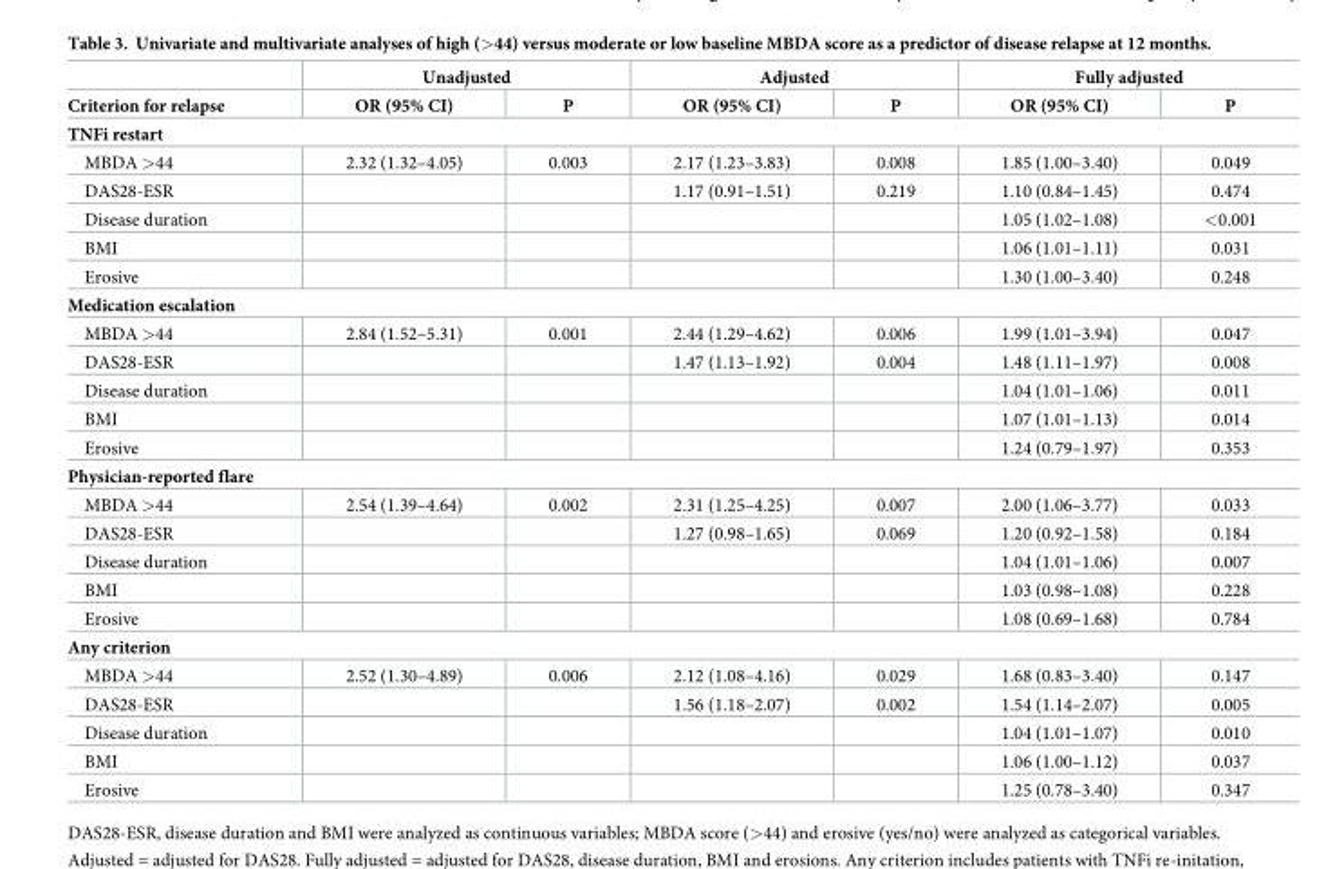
<table><thead><tr><td rowspan="2">Criterion for relapse</td><td colspan="2">Unadjusted</td><td colspan="2">Adjusted</td><td colspan="2">Fully adjusted</td></tr><tr><td>OR (95% CI)</td><td>P</td><td>OR (95% CI)</td><td>P</td><td>OR (95% CI)</td><td>P</td></tr></thead><tbody><tr><td colspan="7">TNFi restart</td></tr><tr><td>MBDA &gt;44</td><td>2.32 (1.32–4.05)</td><td>0.003</td><td>2.17 (1.23–3.83)</td><td>0.008</td><td>1.85 (1.00–3.40)</td><td>0.049</td></tr><tr><td>DAS28-ESR</td><td></td><td></td><td>1.17 (0.91–1.51)</td><td>0.219</td><td>1.10 (0.84–1.45)</td><td>0.474</td></tr><tr><td>Disease duration</td><td></td><td></td><td></td><td></td><td>1.05 (1.02–1.08)</td><td>&lt;0.001</td></tr><tr><td>BMI</td><td></td><td></td><td></td><td></td><td>1.06 (1.01–1.11)</td><td>0.031</td></tr><tr><td>Erosive</td><td></td><td></td><td></td><td></td><td>1.30 (1.00–3.40)</td><td>0.248</td></tr><tr><td colspan="7">Medication escalation</td></tr><tr><td>MBDA &gt;44</td><td>2.84 (1.52–5.31)</td><td>0.001</td><td>2.44 (1.29–4.62)</td><td>0.006</td><td>1.99 (1.01–3.94)</td><td>0.047</td></tr><tr><td>DAS28-ESR</td><td></td><td></td><td>1.47 (1.13–1.92)</td><td>0.004</td><td>1.48 (1.11–1.97)</td><td>0.008</td></tr><tr><td>Disease duration</td><td></td><td></td><td></td><td></td><td>1.04 (1.01–1.06)</td><td>0.011</td></tr><tr><td>BMI</td><td></td><td></td><td></td><td></td><td>1.07 (1.01–1.13)</td><td>0.014</td></tr><tr><td>Erosive</td><td></td><td></td><td></td><td></td><td>1.24 (0.79–1.97)</td><td>0.353</td></tr><tr><td colspan="7">Physician-reported flare</td></tr><tr><td>MBDA &gt;44</td><td>2.54 (1.39–4.64)</td><td>0.002</td><td>2.31 (1.25–4.25)</td><td>0.007</td><td>2.00 (1.06–3.77)</td><td>0.033</td></tr><tr><td>DAS28-ESR</td><td></td><td></td><td>1.27 (0.98–1.65)</td><td>0.069</td><td>1.20 (0.92–1.58)</td><td>0.184</td></tr><tr><td>Disease duration</td><td></td><td></td><td></td><td></td><td>1.04 (1.01–1.06)</td><td>0.007</td></tr><tr><td>BMI</td><td></td><td></td><td></td><td></td><td>1.03 (0.98–1.08)</td><td>0.228</td></tr><tr><td>Erosive</td><td></td><td></td><td></td><td></td><td>1.08 (0.69–1.68)</td><td>0.784</td></tr><tr><td colspan="7">Any criterion</td></tr><tr><td>MBDA &gt;44</td><td>2.52 (1.30–4.89)</td><td>0.006</td><td>2.12 (1.08–4.16)</td><td>0.029</td><td>1.68 (0.83–3.40)</td><td>0.147</td></tr><tr><td>DAS28-ESR</td><td></td><td></td><td>1.56 (1.18–2.07)</td><td>0.002</td><td>1.54 (1.14–2.07)</td><td>0.005</td></tr><tr><td>Disease duration</td><td></td><td></td><td></td><td></td><td>1.04 (1.01–1.07)</td><td>0.010</td></tr><tr><td>BMI</td><td></td><td></td><td></td><td></td><td>1.06 (1.00–1.12)</td><td>0.037</td></tr><tr><td>Erosive</td><td></td><td></td><td></td><td></td><td>1.25 (0.78–3.40)</td><td>0.347</td></tr></tbody></table>